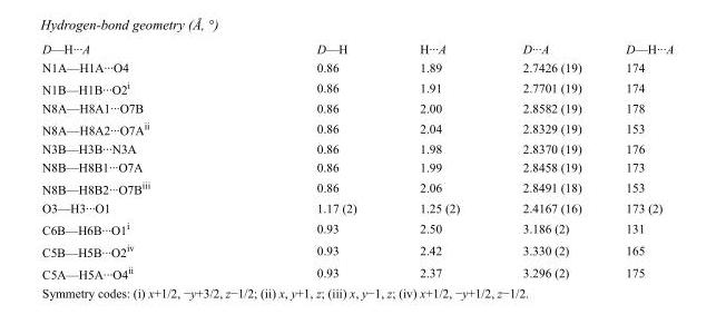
<table><tbody><tr><td>D—H···A</td><td>D—H</td><td>H···A</td><td>D···A</td><td>D—H···A</td></tr><tr><td>N1A—H1A···O4</td><td>0.86</td><td>1.89</td><td>2.7426 (19)</td><td>174</td></tr><tr><td>N1B—H1B···O2<sup>i</sup></td><td>0.86</td><td>1.91</td><td>2.7701 (19)</td><td>174</td></tr><tr><td>N8A—H8A1···O7B</td><td>0.86</td><td>2.00</td><td>2.8582 (19)</td><td>178</td></tr><tr><td>N8A—H8A2···O7A<sup>ii</sup></td><td>0.86</td><td>2.04</td><td>2.8329 (19)</td><td>153</td></tr><tr><td>N3B—H3B···N3A</td><td>0.86</td><td>1.98</td><td>2.8370 (19)</td><td>176</td></tr><tr><td>N8B—H8B1···O7A</td><td>0.86</td><td>1.99</td><td>2.8458 (19)</td><td>173</td></tr><tr><td>N8B—H8B2···O7B<sup>iii</sup></td><td>0.86</td><td>2.06</td><td>2.8491 (18)</td><td>153</td></tr><tr><td>O3—H3···O1</td><td>1.17 (2)</td><td>1.25 (2)</td><td>2.4167 (16)</td><td>173 (2)</td></tr><tr><td>C6B—H6B···O1<sup>i</sup></td><td>0.93</td><td>2.50</td><td>3.186 (2)</td><td>131</td></tr><tr><td>C5B—H5B···O2<sup>iv</sup></td><td>0.93</td><td>2.42</td><td>3.330 (2)</td><td>165</td></tr><tr><td>C5A—H5A···O4<sup>ii</sup></td><td>0.93</td><td>2.37</td><td>3.296 (2)</td><td>175</td></tr></tbody></table>